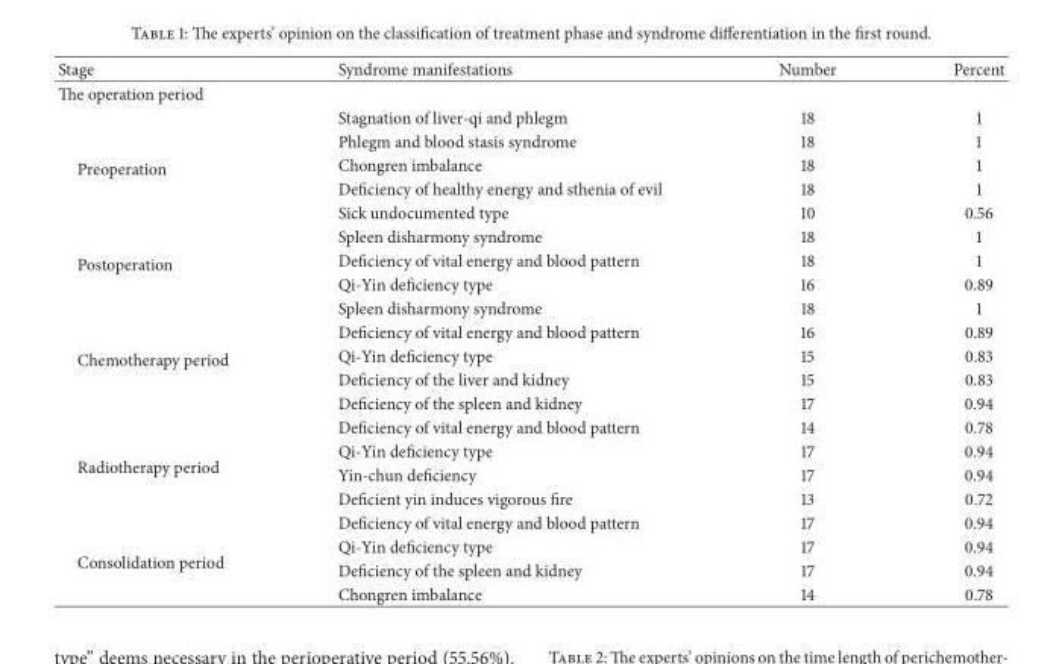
<table><thead><tr><td>Stage</td><td>Syndrome manifestations</td><td>Number</td><td>Percent</td></tr></thead><tbody><tr><td colspan="4">The operation period</td></tr><tr><td rowspan="5">Preoperation</td><td>Stagnation of liver-qi and phlegm</td><td>18</td><td>1</td></tr><tr><td>Phlegm and blood stasis syndrome</td><td>18</td><td>1</td></tr><tr><td>Chongren imbalance</td><td>18</td><td>1</td></tr><tr><td>Deficiency of healthy energy and sthenia of evil</td><td>18</td><td>1</td></tr><tr><td>Sick undocumented type</td><td>10</td><td>0.56</td></tr><tr><td rowspan="3">Postoperation</td><td>Spleen disharmony syndrome</td><td>18</td><td>1</td></tr><tr><td>Deficiency of vital energy and blood pattern</td><td>18</td><td>1</td></tr><tr><td>Qi-Yin deficiency type</td><td>16</td><td>0.89</td></tr><tr><td rowspan="5">Chemotherapy period</td><td>Spleen disharmony syndrome</td><td>18</td><td>1</td></tr><tr><td>Deficiency of vital energy and blood pattern</td><td>16</td><td>0.89</td></tr><tr><td>Qi-Yin deficiency type</td><td>15</td><td>0.83</td></tr><tr><td>Deficiency of the liver and kidney</td><td>15</td><td>0.83</td></tr><tr><td>Deficiency of the spleen and kidney</td><td>17</td><td>0.94</td></tr><tr><td rowspan="4">Radiotherapy period</td><td>Deficiency of vital energy and blood pattern</td><td>14</td><td>0.78</td></tr><tr><td>Qi-Yin deficiency type</td><td>17</td><td>0.94</td></tr><tr><td>Yin-chun deficiency</td><td>17</td><td>0.94</td></tr><tr><td>Deficient yin induces vigorous fire</td><td>13</td><td>0.72</td></tr><tr><td rowspan="4">Consolidation period</td><td>Deficiency of vital energy and blood pattern</td><td>17</td><td>0.94</td></tr><tr><td>Qi-Yin deficiency type</td><td>17</td><td>0.94</td></tr><tr><td>Deficiency of the spleen and kidney</td><td>17</td><td>0.94</td></tr><tr><td>Chongren imbalance</td><td>14</td><td>0.78</td></tr></tbody></table>